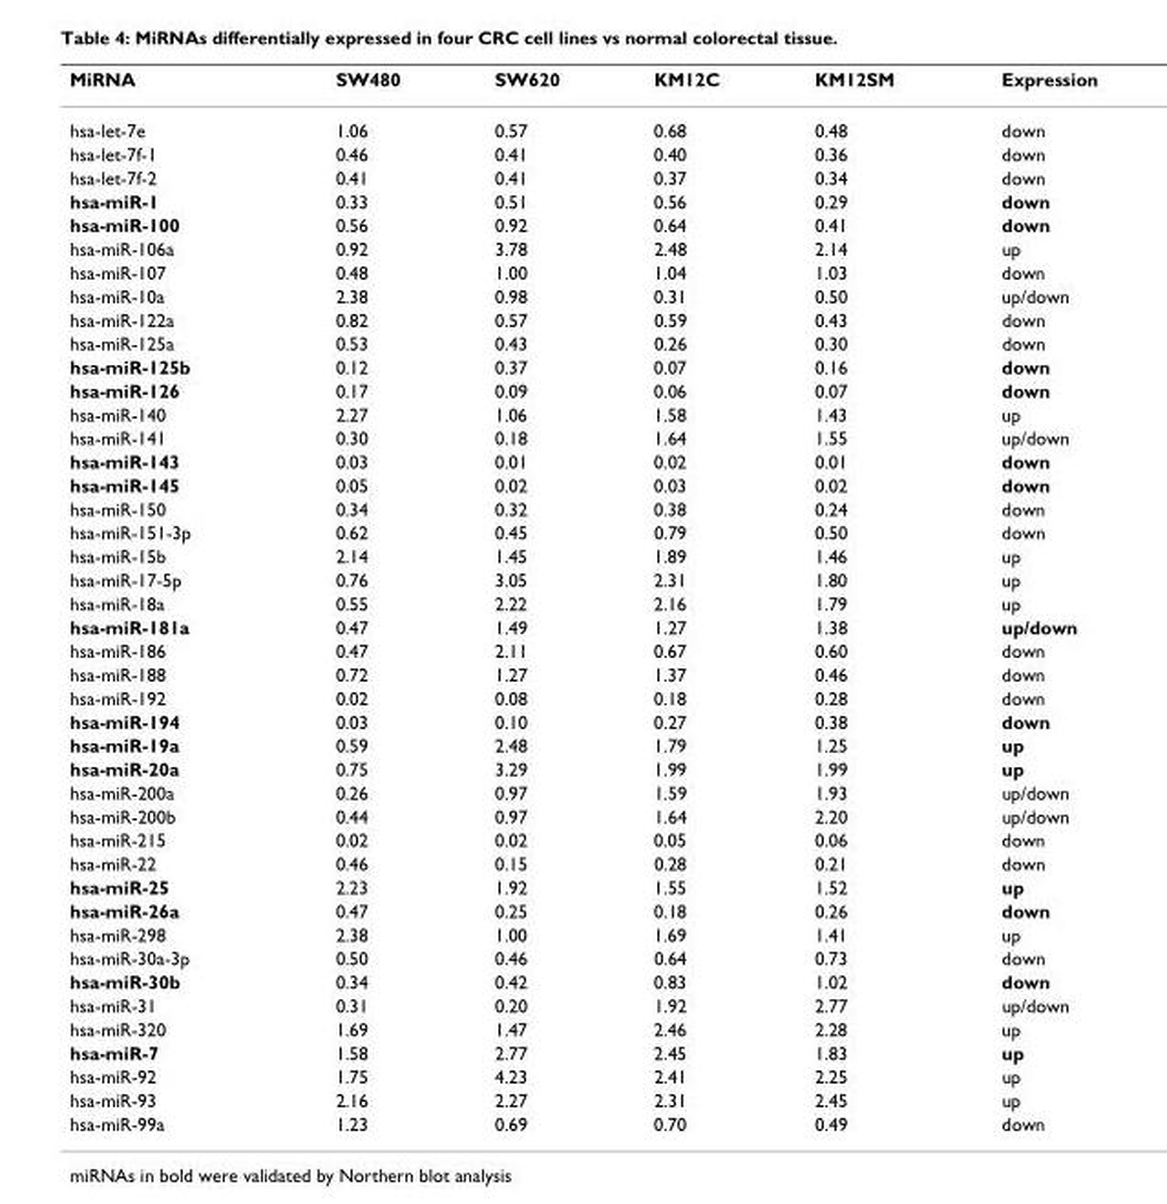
<table><thead><tr><td>MiRNA</td><td>SW480</td><td>SW620</td><td>KM12C</td><td>KM12SM</td><td>Expression</td></tr></thead><tbody><tr><td>hsa-let-7e</td><td>1.06</td><td>0.57</td><td>0.68</td><td>0.48</td><td>down</td></tr><tr><td>hsa-let-7f-1</td><td>0.46</td><td>0.41</td><td>0.40</td><td>0.36</td><td>down</td></tr><tr><td>hsa-let-7f-2</td><td>0.41</td><td>0.41</td><td>0.37</td><td>0.34</td><td>down</td></tr><tr><td>hsa-miR-1</td><td>0.33</td><td>0.51</td><td>0.56</td><td>0.29</td><td>down</td></tr><tr><td>hsa-miR-100</td><td>0.56</td><td>0.92</td><td>0.64</td><td>0.41</td><td>down</td></tr><tr><td>hsa-miR-106a</td><td>0.92</td><td>3.78</td><td>2.48</td><td>2.14</td><td>up</td></tr><tr><td>hsa-miR-107</td><td>0.48</td><td>1.00</td><td>1.04</td><td>1.03</td><td>down</td></tr><tr><td>hsa-miR-10a</td><td>2.38</td><td>0.98</td><td>0.31</td><td>0.50</td><td>up/down</td></tr><tr><td>hsa-miR-122a</td><td>0.82</td><td>0.57</td><td>0.59</td><td>0.43</td><td>down</td></tr><tr><td>hsa-miR-125a</td><td>0.53</td><td>0.43</td><td>0.26</td><td>0.30</td><td>down</td></tr><tr><td>hsa-miR-125b</td><td>0.12</td><td>0.37</td><td>0.07</td><td>0.16</td><td>down</td></tr><tr><td>hsa-miR-126</td><td>0.17</td><td>0.09</td><td>0.06</td><td>0.07</td><td>down</td></tr><tr><td>hsa-miR-140</td><td>2.27</td><td>1.06</td><td>1.58</td><td>1.43</td><td>up</td></tr><tr><td>hsa-miR-141</td><td>0.30</td><td>0.18</td><td>1.64</td><td>1.55</td><td>up/down</td></tr><tr><td>hsa-miR-143</td><td>0.03</td><td>0.01</td><td>0.02</td><td>0.01</td><td>down</td></tr><tr><td>hsa-miR-145</td><td>0.05</td><td>0.02</td><td>0.03</td><td>0.02</td><td>down</td></tr><tr><td>hsa-miR-150</td><td>0.34</td><td>0.32</td><td>0.38</td><td>0.24</td><td>down</td></tr><tr><td>hsa-miR-151-3p</td><td>0.62</td><td>0.45</td><td>0.79</td><td>0.50</td><td>down</td></tr><tr><td>hsa-miR-15b</td><td>2.14</td><td>1.45</td><td>1.89</td><td>1.46</td><td>up</td></tr><tr><td>hsa-miR-17-5p</td><td>0.76</td><td>3.05</td><td>2.31</td><td>1.80</td><td>up</td></tr><tr><td>hsa-miR-18a</td><td>0.55</td><td>2.22</td><td>2.16</td><td>1.79</td><td>up</td></tr><tr><td>hsa-miR-181a</td><td>0.47</td><td>1.49</td><td>1.27</td><td>1.38</td><td>up/down</td></tr><tr><td>hsa-miR-186</td><td>0.47</td><td>2.11</td><td>0.67</td><td>0.60</td><td>down</td></tr><tr><td>hsa-miR-188</td><td>0.72</td><td>1.27</td><td>1.37</td><td>0.46</td><td>down</td></tr><tr><td>hsa-miR-192</td><td>0.02</td><td>0.08</td><td>0.18</td><td>0.28</td><td>down</td></tr><tr><td>hsa-miR-194</td><td>0.03</td><td>0.10</td><td>0.27</td><td>0.38</td><td>down</td></tr><tr><td>hsa-miR-19a</td><td>0.59</td><td>2.48</td><td>1.79</td><td>1.25</td><td>up</td></tr><tr><td>hsa-miR-20a</td><td>0.75</td><td>3.29</td><td>1.99</td><td>1.99</td><td>up</td></tr><tr><td>hsa-miR-200a</td><td>0.26</td><td>0.97</td><td>1.59</td><td>1.93</td><td>up/down</td></tr><tr><td>hsa-miR-200b</td><td>0.44</td><td>0.97</td><td>1.64</td><td>2.20</td><td>up/down</td></tr><tr><td>hsa-miR-215</td><td>0.02</td><td>0.02</td><td>0.05</td><td>0.06</td><td>down</td></tr><tr><td>hsa-miR-22</td><td>0.46</td><td>0.15</td><td>0.28</td><td>0.21</td><td>down</td></tr><tr><td>hsa-miR-25</td><td>2.23</td><td>1.92</td><td>1.55</td><td>1.52</td><td>up</td></tr><tr><td>hsa-miR-26a</td><td>0.47</td><td>0.25</td><td>0.18</td><td>0.26</td><td>down</td></tr><tr><td>hsa-miR-298</td><td>2.38</td><td>1.00</td><td>1.69</td><td>1.41</td><td>up</td></tr><tr><td>hsa-miR-30a-3p</td><td>0.50</td><td>0.46</td><td>0.64</td><td>0.73</td><td>down</td></tr><tr><td>hsa-miR-30b</td><td>0.34</td><td>0.42</td><td>0.83</td><td>1.02</td><td>down</td></tr><tr><td>hsa-miR-31</td><td>0.31</td><td>0.20</td><td>1.92</td><td>2.77</td><td>up/down</td></tr><tr><td>hsa-miR-320</td><td>1.69</td><td>1.47</td><td>2.46</td><td>2.28</td><td>up</td></tr><tr><td>hsa-miR-7</td><td>1.58</td><td>2.77</td><td>2.45</td><td>1.83</td><td>up</td></tr><tr><td>hsa-miR-92</td><td>1.75</td><td>4.23</td><td>2.41</td><td>2.25</td><td>up</td></tr><tr><td>hsa-miR-93</td><td>2.16</td><td>2.27</td><td>2.31</td><td>2.45</td><td>up</td></tr><tr><td>hsa-miR-99a</td><td>1.23</td><td>0.69</td><td>0.70</td><td>0.49</td><td>down</td></tr></tbody></table>